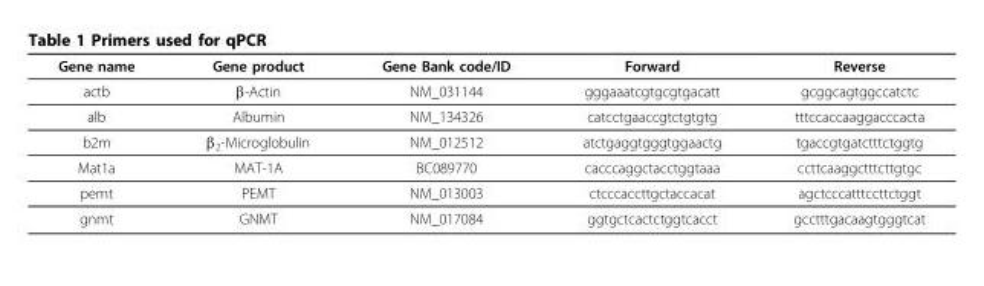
<table><thead><tr><td>Gene name</td><td>Gene product</td><td>Gene Bank code/ID</td><td>Forward</td><td>Reverse</td></tr></thead><tbody><tr><td>actb</td><td>β-Actin</td><td>NM_031144</td><td>gggaaatcgtgcgtgacatt</td><td>gcggcagtggccatctc</td></tr><tr><td>alb</td><td>Albumin</td><td>NM_134326</td><td>catcctgaaccgtctgtgtg</td><td>tttccaccaaggacccacta</td></tr><tr><td>b2m</td><td>β<sub>2</sub>-Microglobulin</td><td>NM_012512</td><td>atctgaggtgggtggaactg</td><td>tgaccgtgatctttctggtg</td></tr><tr><td>Mat1a</td><td>MAT-1A</td><td>BC089770</td><td>cacccaggctacctggtaaa</td><td>ccttcaaggctttcttgtgc</td></tr><tr><td>pemt</td><td>PEMT</td><td>NM_013003</td><td>ctcccaccttgctaccacat</td><td>agctcccatttccttctggt</td></tr><tr><td>gnmt</td><td>GNMT</td><td>NM_017084</td><td>ggtgctcactctggtcacct</td><td>gcctttgacaagtgggtcat</td></tr></tbody></table>